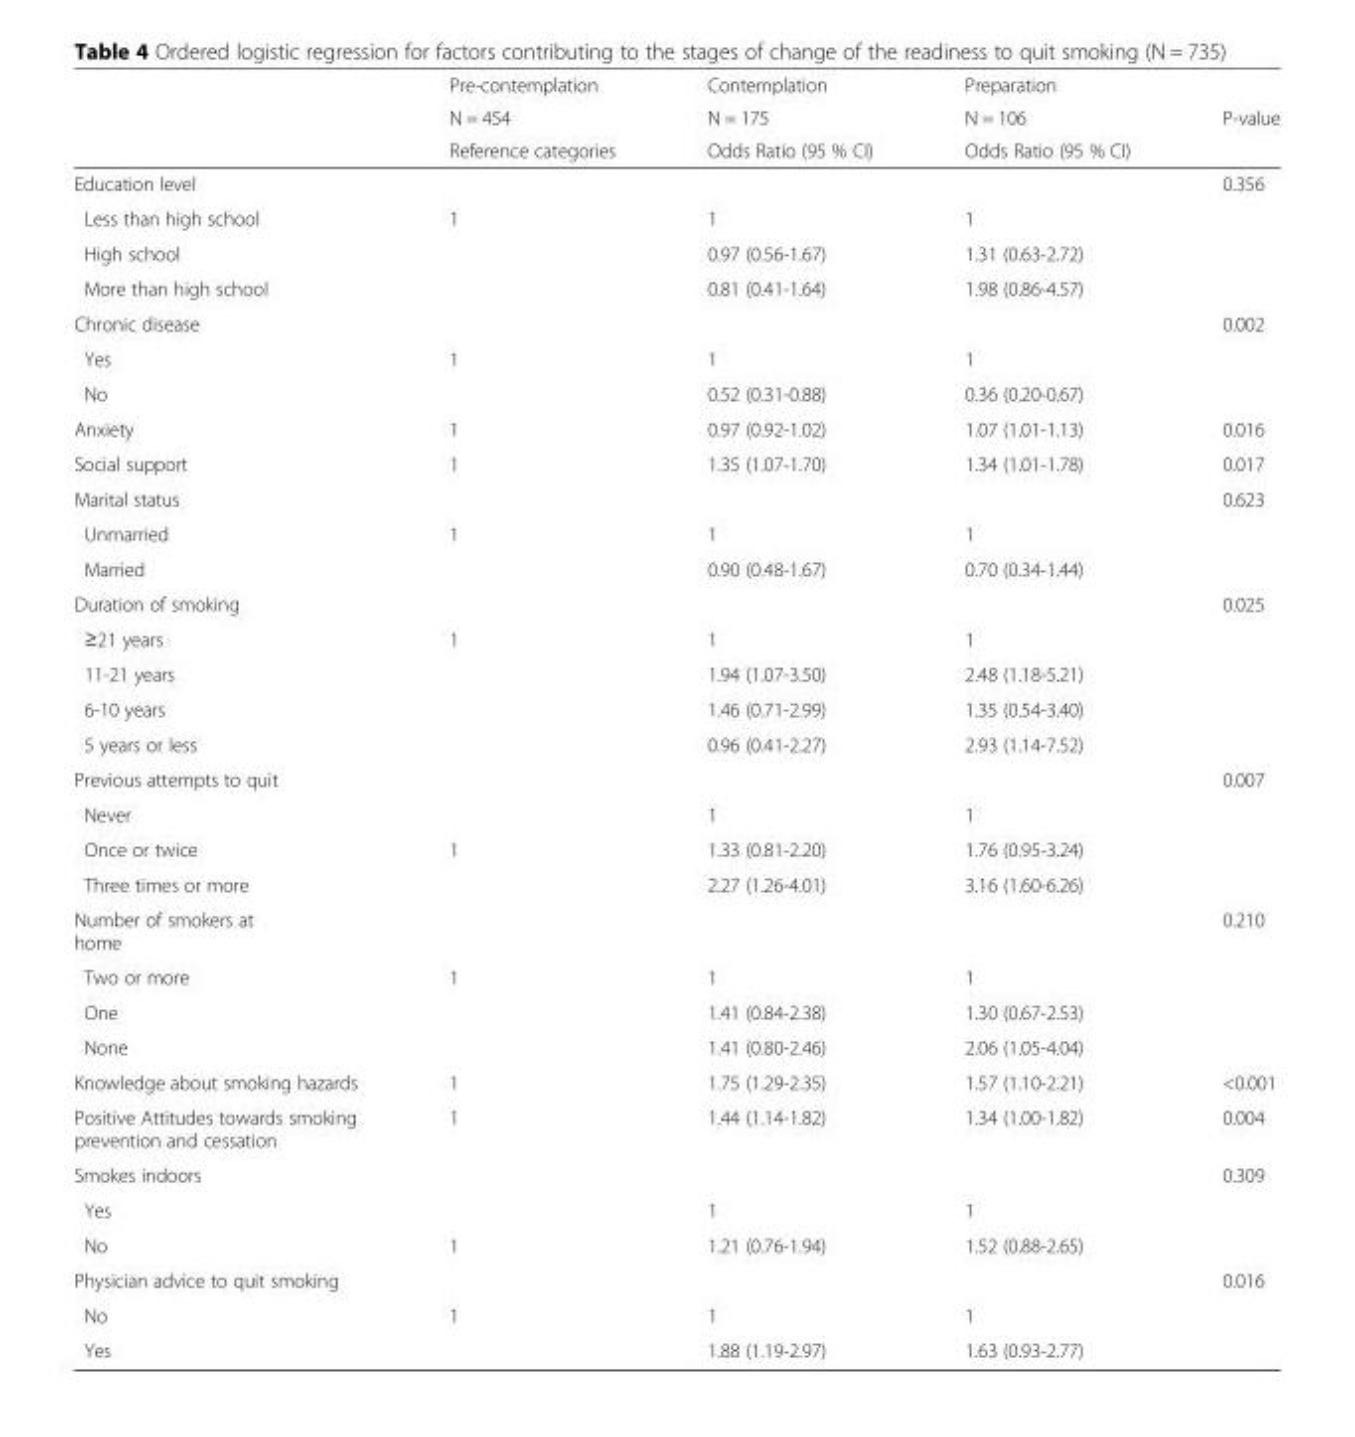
<table><thead><tr><td rowspan="3"></td><td rowspan="3">Pre-contemplation N = 454 Reference categories</td><td rowspan="3">Contemplation N = 175 Odds Ratio (95 % CI)</td><td rowspan="3">Preparation N = 106 Odds Ratio (95 % CI)</td><td rowspan="3">P-value</td></tr><tr></tr><tr></tr></thead><tbody><tr><td>Education level</td><td></td><td></td><td></td><td>0.356</td></tr><tr><td>Less than high school</td><td>1</td><td>1</td><td>1</td><td></td></tr><tr><td>High school</td><td></td><td>0.97 (0.56-1.67)</td><td>1.31 (0.63-2.72)</td><td></td></tr><tr><td>More than high school</td><td></td><td>0.81 (0.41-1.64)</td><td>1.98 (0.86-4.57)</td><td></td></tr><tr><td>Chronic disease</td><td></td><td></td><td></td><td>0.002</td></tr><tr><td>Yes</td><td>1</td><td>1</td><td>1</td><td></td></tr><tr><td>No</td><td></td><td>0.52 (0.31-0.88)</td><td>0.36 (0.20-0.67)</td><td></td></tr><tr><td>Anxiety</td><td>1</td><td>0.97 (0.92-1.02)</td><td>1.07 (1.01-1.13)</td><td>0.016</td></tr><tr><td>Social support</td><td>1</td><td>1.35 (1.07-1.70)</td><td>1.34 (1.01-1.78)</td><td>0.017</td></tr><tr><td>Marital status</td><td></td><td></td><td></td><td>0.623</td></tr><tr><td>Unmarried</td><td>1</td><td>1</td><td>1</td><td></td></tr><tr><td>Married</td><td></td><td>0.90 (0.48-1.67)</td><td>0.70 (0.34-1.44)</td><td></td></tr><tr><td>Duration of smoking</td><td></td><td></td><td></td><td>0.025</td></tr><tr><td>≥21 years</td><td>1</td><td>1</td><td>1</td><td></td></tr><tr><td>11-21 years</td><td></td><td>1.94 (1.07-3.50)</td><td>2.48 (1.18-5.21)</td><td></td></tr><tr><td>6-10 years</td><td></td><td>1.46 (0.71-2.99)</td><td>1.35 (0.54-3.40)</td><td></td></tr><tr><td>5 years or less</td><td></td><td>0.96 (0.41-2.27)</td><td>2.93 (1.14-7.52)</td><td></td></tr><tr><td>Previous attempts to quit</td><td></td><td></td><td></td><td>0.007</td></tr><tr><td>Never</td><td></td><td>1</td><td>1</td><td></td></tr><tr><td>Once or twice</td><td>1</td><td>1.33 (0.81-2.20)</td><td>1.76 (0.95-3.24)</td><td></td></tr><tr><td>Three times or more</td><td></td><td>2.27 (1.26-4.01)</td><td>3.16 (1.60-6.26)</td><td></td></tr><tr><td>Number of smokers at home</td><td></td><td></td><td></td><td>0.210</td></tr><tr><td>Two or more</td><td>1</td><td>1</td><td>1</td><td></td></tr><tr><td>One</td><td></td><td>1.41 (0.84-2.38)</td><td>1.30 (0.67-2.53)</td><td></td></tr><tr><td>None</td><td></td><td>1.41 (0.80-2.46)</td><td>2.06 (1.05-4.04)</td><td></td></tr><tr><td>Knowledge about smoking hazards</td><td>1</td><td>1.75 (1.29-2.35)</td><td>1.57 (1.10-2.21)</td><td>&lt;0.001</td></tr><tr><td>Positive Attitudes towards smoking prevention and cessation</td><td>1</td><td>1.44 (1.14-1.82)</td><td>1.34 (1.00-1.82)</td><td>0.004</td></tr><tr><td>Smokes indoors</td><td></td><td></td><td></td><td>0.309</td></tr><tr><td>Yes</td><td></td><td>1</td><td>1</td><td></td></tr><tr><td>No</td><td>1</td><td>1.21 (0.76-1.94)</td><td>1.52 (0.88-2.65)</td><td></td></tr><tr><td>Physician advice to quit smoking</td><td></td><td></td><td></td><td>0.016</td></tr><tr><td>No</td><td>1</td><td>1</td><td>1</td><td></td></tr><tr><td>Yes</td><td></td><td>1.88 (1.19-2.97)</td><td>1.63 (0.93-2.77)</td><td></td></tr></tbody></table>